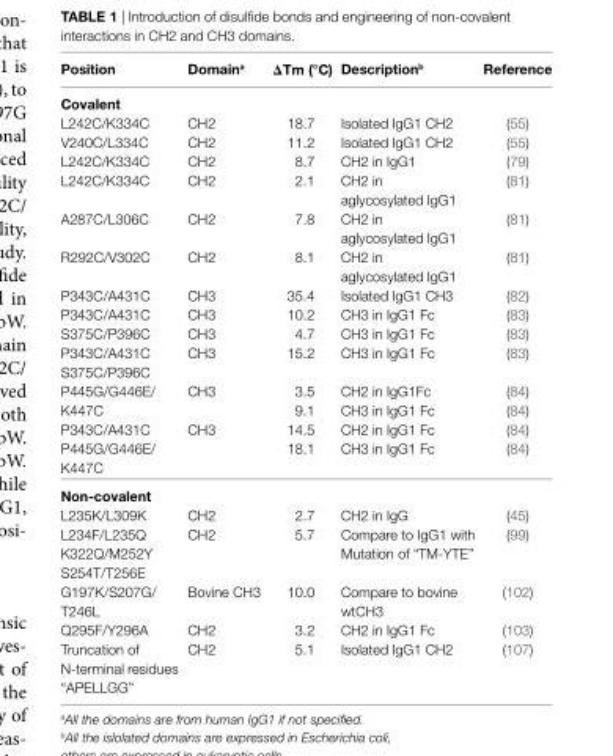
<table><thead><tr><td>Position</td><td>Domain<sup>a</sup></td><td>ΔTm (°C)</td><td>Description<sup>b</sup></td><td>Reference</td></tr></thead><tbody><tr><td colspan="5">Covalent</td></tr><tr><td>L242C/K334C</td><td>CH2</td><td>18.7</td><td>Isolated IgG1 CH2</td><td>(55)</td></tr><tr><td>V240C/L334C</td><td>CH2</td><td>11.2</td><td>Isolated IgG1 CH2</td><td>(55)</td></tr><tr><td>L242C/K334C</td><td>CH2</td><td>8.7</td><td>CH2 in IgG1</td><td>(79)</td></tr><tr><td>L242C/K334C</td><td>CH2</td><td>2.1</td><td>CH2 in aglycosylated IgG1</td><td>(81)</td></tr><tr><td>A287C/L306C</td><td>CH2</td><td>7.8</td><td>CH2 in aglycosylated IgG1</td><td>(81)</td></tr><tr><td>R292C/V302C</td><td>CH2</td><td>8.1</td><td>CH2 in aglycosylated IgG1</td><td>(81)</td></tr><tr><td>P343C/A431C</td><td>CH3</td><td>35.4</td><td>Isolated IgG1 CH3</td><td>(82)</td></tr><tr><td>P343C/A431C</td><td>CH3</td><td>10.2</td><td>CH3 in IgG1 Fc</td><td>(83)</td></tr><tr><td>S375C/P396C</td><td>CH3</td><td>4.7</td><td>CH3 in IgG1 Fc</td><td>(83)</td></tr><tr><td>P343C/A431C</td><td rowspan="2">CH3</td><td rowspan="2">15.2</td><td rowspan="2">CH3 in IgG1 Fc</td><td rowspan="2">(83)</td></tr><tr><td>S375C/P396C</td></tr><tr><td rowspan="2">P445G/G446E/ K447C</td><td rowspan="2">CH3</td><td>3.5</td><td>CH2 in IgG1Fc</td><td>(84)</td></tr><tr><td>9.1</td><td>CH3 in IgG1 Fc</td><td>(84)</td></tr><tr><td>P343C/A431C</td><td rowspan="2">CH3</td><td>14.5</td><td>CH2 in IgG1 Fc</td><td>(84)</td></tr><tr><td>P445G/G446E/ K447C</td><td>18.1</td><td>CH3 in IgG1 Fc</td><td>(84)</td></tr><tr><td colspan="5">Non-covalent</td></tr><tr><td>L235K/L309K</td><td>CH2</td><td>2.7</td><td>CH2 in IgG</td><td>(45)</td></tr><tr><td>L234F/L235Q K322Q/M252Y S254T/T256E</td><td>CH2</td><td>5.7</td><td>Compare to IgG1 with Mutation of “TM-YTE”</td><td>(99)</td></tr><tr><td>G197K/S207G/ T246L</td><td>Bovine CH3</td><td>10.0</td><td>Compare to bovine wtCH3</td><td>(102)</td></tr><tr><td>Q295F/Y296A</td><td>CH2</td><td>3.2</td><td>CH2 in IgG1 Fc</td><td>(103)</td></tr><tr><td>Truncation of N-terminal residues “APELLGG”</td><td>CH2</td><td>5.1</td><td>Isolated IgG1 CH2</td><td>(107)</td></tr></tbody></table>